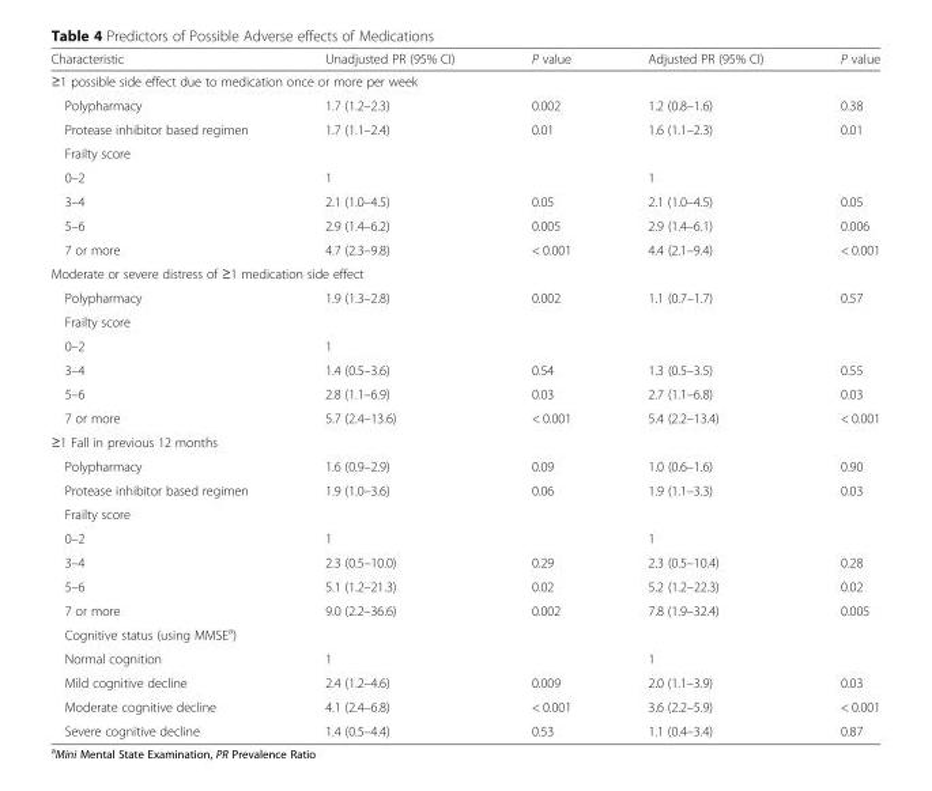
<table><thead><tr><td>Characteristic</td><td>Unadjusted PR (95% CI)</td><td>P value</td><td>Adjusted PR (95% CI)</td><td>P value</td></tr></thead><tbody><tr><td colspan="5">≥1 possible side effect due to medication once or more per week</td></tr><tr><td>Polypharmacy</td><td>1.7 (1.2–2.3)</td><td>0.002</td><td>1.2 (0.8–1.6)</td><td>0.38</td></tr><tr><td>Protease inhibitor based regimen</td><td>1.7 (1.1–2.4)</td><td>0.01</td><td>1.6 (1.1–2.3)</td><td>0.01</td></tr><tr><td colspan="5">Frailty score</td></tr><tr><td>0–2</td><td>1</td><td></td><td>1</td><td></td></tr><tr><td>3–4</td><td>2.1 (1.0–4.5)</td><td>0.05</td><td>2.1 (1.0–4.5)</td><td>0.05</td></tr><tr><td>5–6</td><td>2.9 (1.4–6.2)</td><td>0.005</td><td>2.9 (1.4–6.1)</td><td>0.006</td></tr><tr><td>7 or more</td><td>4.7 (2.3–9.8)</td><td>&lt; 0.001</td><td>4.4 (2.1–9.4)</td><td>&lt; 0.001</td></tr><tr><td colspan="5">Moderate or severe distress of ≥1 medication side effect</td></tr><tr><td>Polypharmacy</td><td>1.9 (1.3–2.8)</td><td>0.002</td><td>1.1 (0.7–1.7)</td><td>0.57</td></tr><tr><td colspan="5">Frailty score</td></tr><tr><td>0–2</td><td>1</td><td></td><td></td><td></td></tr><tr><td>3–4</td><td>1.4 (0.5–3.6)</td><td>0.54</td><td>1.3 (0.5–3.5)</td><td>0.55</td></tr><tr><td>5–6</td><td>2.8 (1.1–6.9)</td><td>0.03</td><td>2.7 (1.1–6.8)</td><td>0.03</td></tr><tr><td>7 or more</td><td>5.7 (2.4–13.6)</td><td>&lt; 0.001</td><td>5.4 (2.2–13.4)</td><td>&lt; 0.001</td></tr><tr><td colspan="5">≥1 Fall in previous 12 months</td></tr><tr><td>Polypharmacy</td><td>1.6 (0.9–2.9)</td><td>0.09</td><td>1.0 (0.6–1.6)</td><td>0.90</td></tr><tr><td>Protease inhibitor based regimen</td><td>1.9 (1.0–3.6)</td><td>0.06</td><td>1.9 (1.1–3.3)</td><td>0.03</td></tr><tr><td colspan="5">Frailty score</td></tr><tr><td>0–2</td><td>1</td><td></td><td>1</td><td></td></tr><tr><td>3–4</td><td>2.3 (0.5–10.0)</td><td>0.29</td><td>2.3 (0.5–10.4)</td><td>0.28</td></tr><tr><td>5–6</td><td>5.1 (1.2–21.3)</td><td>0.02</td><td>5.2 (1.2–22.3)</td><td>0.02</td></tr><tr><td>7 or more</td><td>9.0 (2.2–36.6)</td><td>0.002</td><td>7.8 (1.9–32.4)</td><td>0.005</td></tr><tr><td colspan="5">Cognitive status (using MMSE<sup>a</sup>)</td></tr><tr><td>Normal cognition</td><td>1</td><td></td><td>1</td><td></td></tr><tr><td>Mild cognitive decline</td><td>2.4 (1.2–4.6)</td><td>0.009</td><td>2.0 (1.1–3.9)</td><td>0.03</td></tr><tr><td>Moderate cognitive decline</td><td>4.1 (2.4–6.8)</td><td>&lt; 0.001</td><td>3.6 (2.2–5.9)</td><td>&lt; 0.001</td></tr><tr><td>Severe cognitive decline</td><td>1.4 (0.5–4.4)</td><td>0.53</td><td>1.1 (0.4–3.4)</td><td>0.87</td></tr></tbody></table>